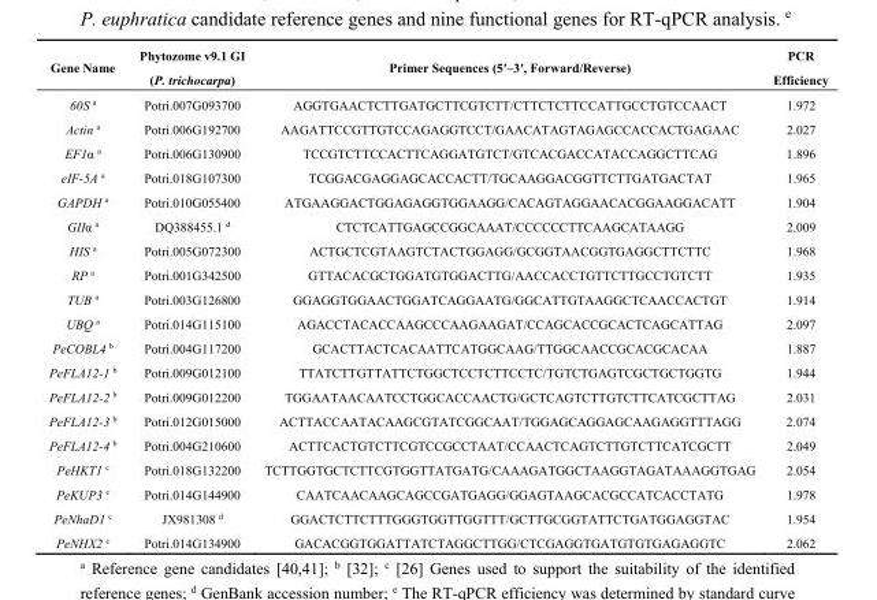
<table><thead><tr><td>Gene Name</td><td>Phytozome v9.1 GI (P. trichocarpa)</td><td>Primer Sequences (5′–3′, Forward/Reverse)</td><td>PCR Efficiency</td></tr></thead><tbody><tr><td>60S <sup>a</sup></td><td>Potri.007G093700</td><td>AGGTGAACTCTTGATGCTTCGTCTT/CTTCTCTTCCATTGCCTGTCCAACT</td><td>1.972</td></tr><tr><td>Actin <sup>a</sup></td><td>Potri.006G192700</td><td>AAGATTCCGTTGTCCAGAGGTCCT/GAACATAGTAGAGCCACCACTGAGAAC</td><td>2.027</td></tr><tr><td>EF1α <sup>a</sup></td><td>Potri.006G130900</td><td>TCCGTCTTCCACTTCAGGATGTCT/GTCACGACCATACCAGGCTTCAG</td><td>1.896</td></tr><tr><td>eIF-5A <sup>a</sup></td><td>Potri.018G107300</td><td>TCGGACGAGGAGCACCACTT/TGCAAGGACGGTTCTTGATGACTAT</td><td>1.965</td></tr><tr><td>GAPDH <sup>a</sup></td><td>Potri.010G055400</td><td>ATGAAGGACTGGAGAGGTGGAAGG/CACAGTAGGAACACGGAAGGACATT</td><td>1.904</td></tr><tr><td>GIIα <sup>a</sup></td><td>DQ388455.1 <sup>d</sup></td><td>CTCTCATTGAGCCGGCAAAT/CCCCCCTTCAAGCATAAGG</td><td>2.009</td></tr><tr><td>HIS <sup>a</sup></td><td>Potri.005G072300</td><td>ACTGCTCGTAAGTCTACTGGAGG/GCGGTAACGGTGAGGCTTCTTC</td><td>1.968</td></tr><tr><td>RP <sup>a</sup></td><td>Potri.001G342500</td><td>GTTACACGCTGGATGTGGACTTG/AACCACCTGTTCTTGCCTGTCTT</td><td>1.935</td></tr><tr><td>TUB <sup>a</sup></td><td>Potri.003G126800</td><td>GGAGGTGGAACTGGATCAGGAATG/GGCATTGTAAGGCTCAACCACTGT</td><td>1.914</td></tr><tr><td>UBQ <sup>a</sup></td><td>Potri.014G115100</td><td>AGACCTACACCAAGCCCAAGAAGAT/CCAGCACCGCACTCAGCATTAG</td><td>2.097</td></tr><tr><td>PeCOBL4 <sup>b</sup></td><td>Potri.004G117200</td><td>GCACTTACTCACAATTCATGGCAAG/TTGGCAACCGCACGCACAA</td><td>1.887</td></tr><tr><td>PeFLA12-1 <sup>b</sup></td><td>Potri.009G012100</td><td>TTATCTTGTTATTCTGGCTCCTCTTCCTC/TGTCTGAGTCGCTGCTGGTG</td><td>1.944</td></tr><tr><td>PeFLA12-2 <sup>b</sup></td><td>Potri.009G012200</td><td>TGGAATAACAATCCTGGCACCAACTG/GCTCAGTCTTGTCTTCATCGCTTAG</td><td>2.031</td></tr><tr><td>PeFLA12-3 <sup>b</sup></td><td>Potri.012G015000</td><td>ACTTACCAATACAAGCGTATCGGCAAT/TGGAGCAGGAGCAAGAGGTTTAGG</td><td>2.074</td></tr><tr><td>PeFLA12-4 <sup>b</sup></td><td>Potri.004G210600</td><td>ACTTCACTGTCTTCGTCCGCCTAAT/CCAACTCAGTCTTGTCTTCATCGCTT</td><td>2.049</td></tr><tr><td>PeHKT1 <sup>c</sup></td><td>Potri.018G132200</td><td>TCTTGGTGCTCTTCGTGGTTATGATG/CAAAGATGGCTAAGGTAGATAAAGGTGAG</td><td>2.054</td></tr><tr><td>PeKUP3 <sup>c</sup></td><td>Potri.014G144900</td><td>CAATCAACAAGCAGCCGATGAGG/GGAGTAAGCACGCCATCACCTATG</td><td>1.978</td></tr><tr><td>PeNhaD1 <sup>c</sup></td><td>JX981308 <sup>d</sup></td><td>GGACTCTTCTTTGGGTGGTTGGTTT/GCTTGCGGTATTCTGATGGAGGTAC</td><td>1.954</td></tr><tr><td>PeNHX2 <sup>c</sup></td><td>Potri.014G134900</td><td>GACACGGTGGATTATCTAGGCTTGG/CTCGAGGTGATGTGTGAGAGGTC</td><td>2.062</td></tr></tbody></table>